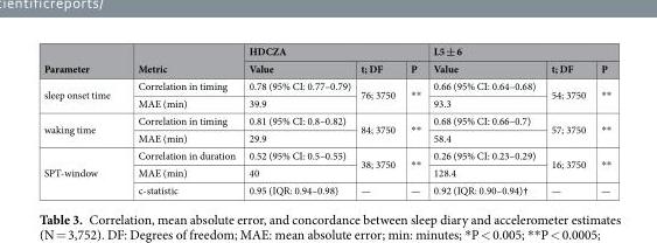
<table><thead><tr><td rowspan="2">Parameter</td><td rowspan="2">Metric</td><td colspan="3">HDCZA</td><td colspan="3">L5 ± 6</td></tr><tr><td>Value</td><td>t; DF</td><td>P</td><td>Value</td><td>t; DF</td><td>P</td></tr></thead><tbody><tr><td rowspan="2">sleep onset time</td><td>Correlation in timing</td><td>0.78 (95% CI: 0.77–0.79)</td><td rowspan="2">76; 3750</td><td rowspan="2">**</td><td>0.66 (95% CI: 0.64–0.68)</td><td rowspan="2">54; 3750</td><td rowspan="2">**</td></tr><tr><td>MAE (min)</td><td>39.9</td><td>93.3</td></tr><tr><td rowspan="2">waking time</td><td>Correlation in timing</td><td>0.81 (95% CI: 0.8–0.82)</td><td rowspan="2">84; 3750</td><td rowspan="2">**</td><td>0.68 (95% CI: 0.66–0.7)</td><td rowspan="2">57; 3750</td><td rowspan="2">**</td></tr><tr><td>MAE (min)</td><td>29.9</td><td>58.4</td></tr><tr><td rowspan="3">SPT-window</td><td>Correlation in duration</td><td>0.52 (95% CI: 0.5–0.55)</td><td rowspan="2">38; 3750</td><td rowspan="2">**</td><td>0.26 (95% CI: 0.23–0.29)</td><td rowspan="2">16; 3750</td><td rowspan="2">**</td></tr><tr><td>MAE (min)</td><td>40</td><td>128.4</td></tr><tr><td>c-statistic</td><td>0.95 (IQR: 0.94–0.98)</td><td>—</td><td>—</td><td>0.92 (IQR: 0.90–0.94)†</td><td>—</td><td>—</td></tr></tbody></table>